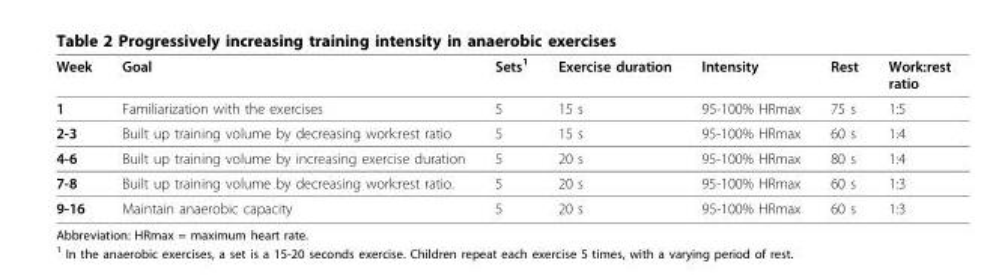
<table><thead><tr><td>Week</td><td>Goal</td><td>Sets<sup>1</sup></td><td>Exercise duration</td><td>Intensity</td><td>Rest</td><td>Work:rest ratio</td></tr></thead><tbody><tr><td>1</td><td>Familiarization with the exercises</td><td>5</td><td>15 s</td><td>95-100% HRmax</td><td>75 s</td><td>1:5</td></tr><tr><td>2-3</td><td>Built up training volume by decreasing work:rest ratio</td><td>5</td><td>15 s</td><td>95-100% HRmax</td><td>60 s</td><td>1:4</td></tr><tr><td>4-6</td><td>Built up training volume by increasing exercise duration</td><td>5</td><td>20 s</td><td>95-100% HRmax</td><td>80 s</td><td>1:4</td></tr><tr><td>7-8</td><td>Built up training volume by decreasing work:rest ratio.</td><td>5</td><td>20 s</td><td>95-100% HRmax</td><td>60 s</td><td>1:3</td></tr><tr><td>9-16</td><td>Maintain anaerobic capacity</td><td>5</td><td>20 s</td><td>95-100% HRmax</td><td>60 s</td><td>1:3</td></tr></tbody></table>